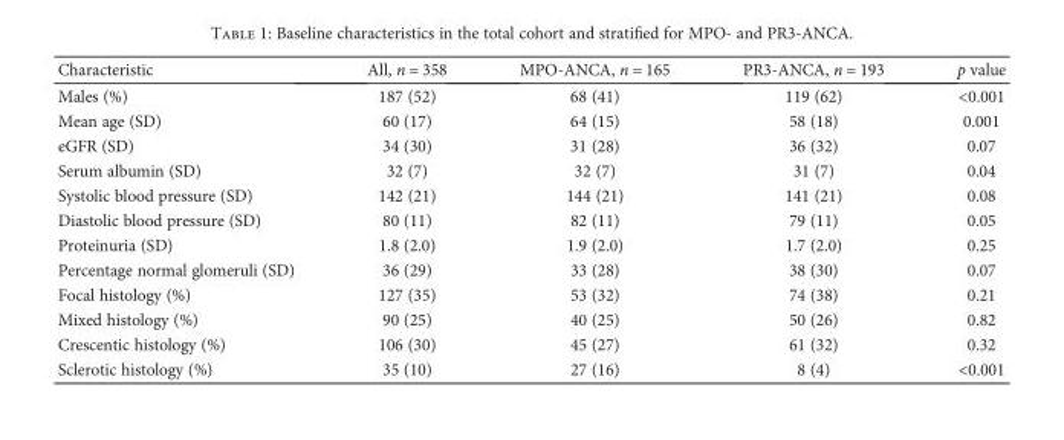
<table><thead><tr><td>Characteristic</td><td>All, n = 358</td><td>MPO-ANCA, n = 165</td><td>PR3-ANCA, n = 193</td><td>p value</td></tr></thead><tbody><tr><td>Males (%)</td><td>187 (52)</td><td>68 (41)</td><td>119 (62)</td><td>&lt;0.001</td></tr><tr><td>Mean age (SD)</td><td>60 (17)</td><td>64 (15)</td><td>58 (18)</td><td>0.001</td></tr><tr><td>eGFR (SD)</td><td>34 (30)</td><td>31 (28)</td><td>36 (32)</td><td>0.07</td></tr><tr><td>Serum albumin (SD)</td><td>32 (7)</td><td>32 (7)</td><td>31 (7)</td><td>0.04</td></tr><tr><td>Systolic blood pressure (SD)</td><td>142 (21)</td><td>144 (21)</td><td>141 (21)</td><td>0.08</td></tr><tr><td>Diastolic blood pressure (SD)</td><td>80 (11)</td><td>82 (11)</td><td>79 (11)</td><td>0.05</td></tr><tr><td>Proteinuria (SD)</td><td>1.8 (2.0)</td><td>1.9 (2.0)</td><td>1.7 (2.0)</td><td>0.25</td></tr><tr><td>Percentage normal glomeruli (SD)</td><td>36 (29)</td><td>33 (28)</td><td>38 (30)</td><td>0.07</td></tr><tr><td>Focal histology (%)</td><td>127 (35)</td><td>53 (32)</td><td>74 (38)</td><td>0.21</td></tr><tr><td>Mixed histology (%)</td><td>90 (25)</td><td>40 (25)</td><td>50 (26)</td><td>0.82</td></tr><tr><td>Crescentic histology (%)</td><td>106 (30)</td><td>45 (27)</td><td>61 (32)</td><td>0.32</td></tr><tr><td>Sclerotic histology (%)</td><td>35 (10)</td><td>27 (16)</td><td>8 (4)</td><td>&lt;0.001</td></tr></tbody></table>